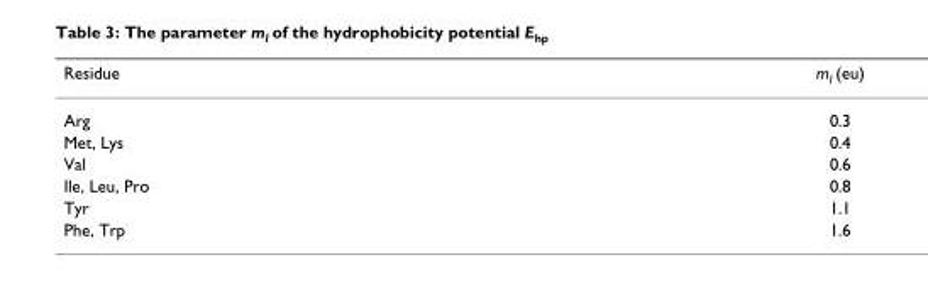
<table><thead><tr><td>Residue</td><td>m<sub>I</sub> (eu)</td></tr></thead><tbody><tr><td>Arg</td><td>0.3</td></tr><tr><td>Met, Lys</td><td>0.4</td></tr><tr><td>Val</td><td>0.6</td></tr><tr><td>Ile, Leu, Pro</td><td>0.8</td></tr><tr><td>Tyr</td><td>1.1</td></tr><tr><td>Phe, Trp</td><td>1.6</td></tr></tbody></table>